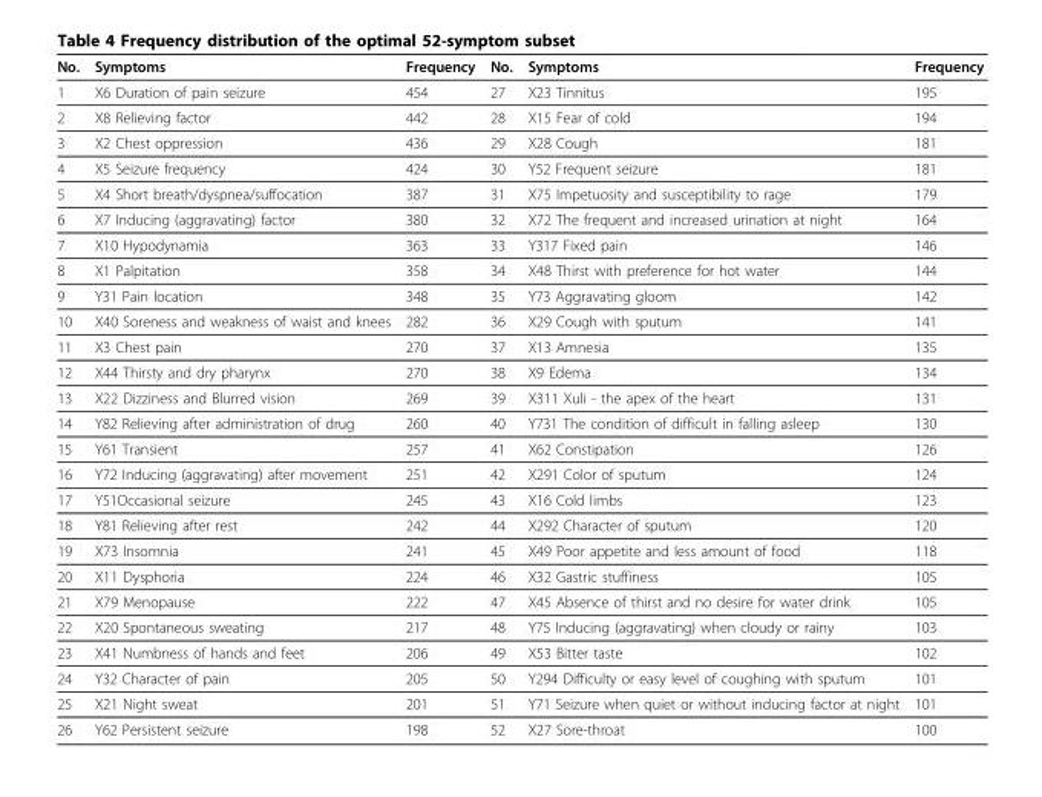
<table><thead><tr><td>No.</td><td>Symptoms</td><td>Frequency</td><td>No.</td><td>Symptoms</td><td>Frequency</td></tr></thead><tbody><tr><td>1</td><td>X6 Duration of pain seizure</td><td>454</td><td>27</td><td>X23 Tinnitus</td><td>195</td></tr><tr><td>2</td><td>X8 Relieving factor</td><td>442</td><td>28</td><td>X15 Fear of cold</td><td>194</td></tr><tr><td>3</td><td>X2 Chest oppression</td><td>436</td><td>29</td><td>X28 Cough</td><td>181</td></tr><tr><td>4</td><td>X5 Seizure frequency</td><td>424</td><td>30</td><td>Y52 Frequent seizure</td><td>181</td></tr><tr><td>5</td><td>X4 Short breath/dyspnea/suffocation</td><td>387</td><td>31</td><td>X75 Impetuosity and susceptibility to rage</td><td>179</td></tr><tr><td>6</td><td>X7 Inducing (aggravating) factor</td><td>380</td><td>32</td><td>X72 The frequent and increased urination at night</td><td>164</td></tr><tr><td>7</td><td>X10 Hypodynamia</td><td>363</td><td>33</td><td>Y317 Fixed pain</td><td>146</td></tr><tr><td>8</td><td>X1 Palpitation</td><td>358</td><td>34</td><td>X48 Thirst with preference for hot water</td><td>144</td></tr><tr><td>9</td><td>Y31 Pain location</td><td>348</td><td>35</td><td>Y73 Aggravating gloom</td><td>142</td></tr><tr><td>10</td><td>X40 Soreness and weakness of waist and knees</td><td>282</td><td>36</td><td>X29 Cough with sputum</td><td>141</td></tr><tr><td>11</td><td>X3 Chest pain</td><td>270</td><td>37</td><td>X13 Amnesia</td><td>135</td></tr><tr><td>12</td><td>X44 Thirsty and dry pharynx</td><td>270</td><td>38</td><td>X9 Edema</td><td>134</td></tr><tr><td>13</td><td>X22 Dizziness and Blurred vision</td><td>269</td><td>39</td><td>X311 Xuli - the apex of the heart</td><td>131</td></tr><tr><td>14</td><td>Y82 Relieving after administration of drug</td><td>260</td><td>40</td><td>Y731 The condition of difficult in falling asleep</td><td>130</td></tr><tr><td>15</td><td>Y61 Transient</td><td>257</td><td>41</td><td>X62 Constipation</td><td>126</td></tr><tr><td>16</td><td>Y72 Inducing (aggravating) after movement</td><td>251</td><td>42</td><td>X291 Color of sputum</td><td>124</td></tr><tr><td>17</td><td>Y51Occasional seizure</td><td>245</td><td>43</td><td>X16 Cold limbs</td><td>123</td></tr><tr><td>18</td><td>Y81 Relieving after rest</td><td>242</td><td>44</td><td>X292 Character of sputum</td><td>120</td></tr><tr><td>19</td><td>X73 Insomnia</td><td>241</td><td>45</td><td>X49 Poor appetite and less amount of food</td><td>118</td></tr><tr><td>20</td><td>X11 Dysphoria</td><td>224</td><td>46</td><td>X32 Gastric stuffiness</td><td>105</td></tr><tr><td>21</td><td>X79 Menopause</td><td>222</td><td>47</td><td>X45 Absence of thirst and no desire for water drink</td><td>105</td></tr><tr><td>22</td><td>X20 Spontaneous sweating</td><td>217</td><td>48</td><td>Y75 Inducing (aggravating) when cloudy or rainy</td><td>103</td></tr><tr><td>23</td><td>X41 Numbness of hands and feet</td><td>206</td><td>49</td><td>X53 Bitter taste</td><td>102</td></tr><tr><td>24</td><td>Y32 Character of pain</td><td>205</td><td>50</td><td>Y294 Difficulty or easy level of coughing with sputum</td><td>101</td></tr><tr><td>25</td><td>X21 Night sweat</td><td>201</td><td>51</td><td>Y71 Seizure when quiet or without inducing factor at night</td><td>101</td></tr><tr><td>26</td><td>Y62 Persistent seizure</td><td>198</td><td>52</td><td>X27 Sore-throat</td><td>100</td></tr></tbody></table>